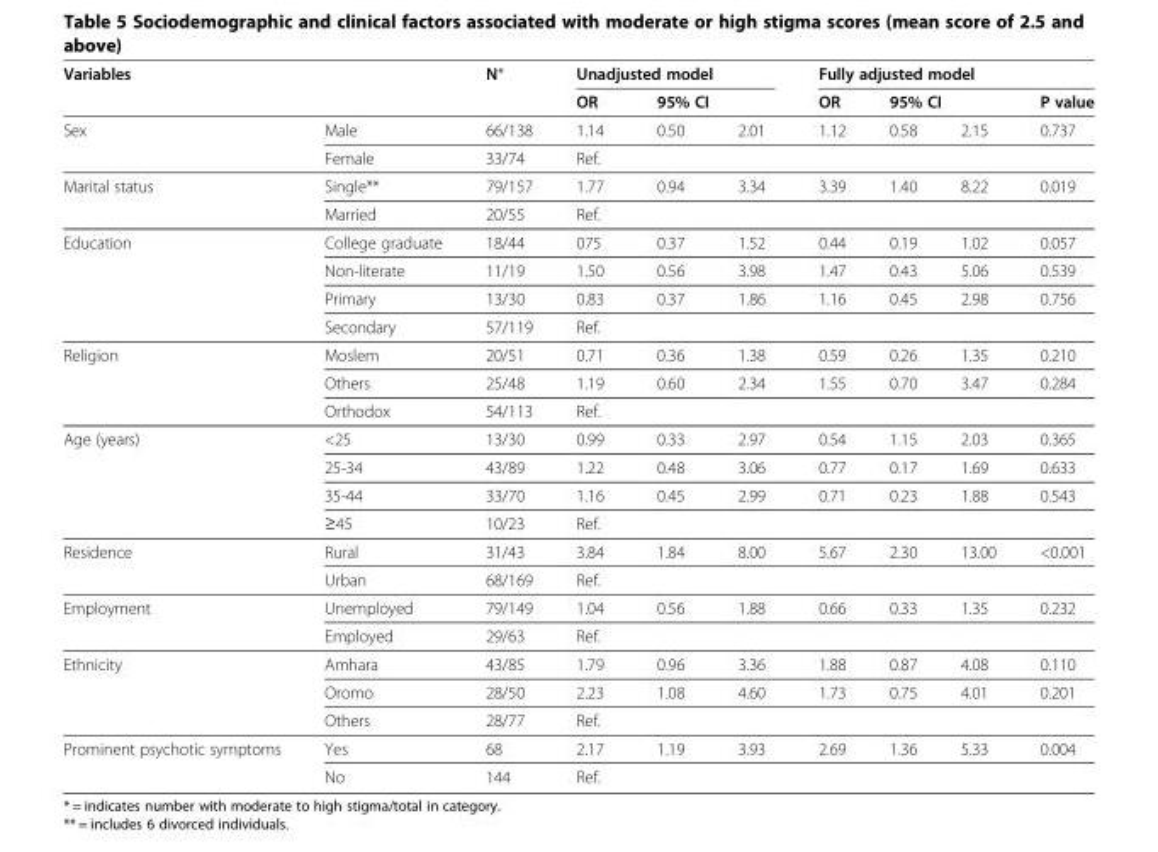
<table><thead><tr><td colspan="2">Variables</td><td rowspan="3">N* 66/138</td><td colspan="3">Unadjusted model</td><td colspan="4">Fully adjusted model</td></tr><tr><td rowspan="2">Sex</td><td rowspan="2">Male</td><td rowspan="2">OR 1.14</td><td colspan="2">95% CI</td><td rowspan="2">OR 1.12</td><td colspan="2">95% CI</td><td rowspan="2">P value 0.737</td></tr><tr><td>0.50</td><td>2.01</td><td>0.58</td><td>2.15</td></tr></thead><tbody><tr><td></td><td>Female</td><td>33/74</td><td>Ref.</td><td></td><td></td><td></td><td></td><td></td><td></td></tr><tr><td rowspan="2">Marital status</td><td>Single**</td><td>79/157</td><td>1.77</td><td>0.94</td><td>3.34</td><td>3.39</td><td>1.40</td><td>8.22</td><td>0.019</td></tr><tr><td>Married</td><td>20/55</td><td>Ref.</td><td></td><td></td><td></td><td></td><td></td><td></td></tr><tr><td rowspan="4">Education</td><td>College graduate</td><td>18/44</td><td>075</td><td>0.37</td><td>1.52</td><td>0.44</td><td>0.19</td><td>1.02</td><td>0.057</td></tr><tr><td>Non-literate</td><td>11/19</td><td>1.50</td><td>0.56</td><td>3.98</td><td>1.47</td><td>0.43</td><td>5.06</td><td>0.539</td></tr><tr><td>Primary</td><td>13/30</td><td>0.83</td><td>0.37</td><td>1.86</td><td>1.16</td><td>0.45</td><td>2.98</td><td>0.756</td></tr><tr><td>Secondary</td><td>57/119</td><td>Ref.</td><td></td><td></td><td></td><td></td><td></td><td></td></tr><tr><td rowspan="3">Religion</td><td>Moslem</td><td>20/51</td><td>0.71</td><td>0.36</td><td>1.38</td><td>0.59</td><td>0.26</td><td>1.35</td><td>0.210</td></tr><tr><td>Others</td><td>25/48</td><td>1.19</td><td>0.60</td><td>2.34</td><td>1.55</td><td>0.70</td><td>3.47</td><td>0.284</td></tr><tr><td>Orthodox</td><td>54/113</td><td>Ref.</td><td></td><td></td><td></td><td></td><td></td><td></td></tr><tr><td rowspan="4">Age (years)</td><td>&lt;25</td><td>13/30</td><td>0.99</td><td>0.33</td><td>2.97</td><td>0.54</td><td>1.15</td><td>2.03</td><td>0.365</td></tr><tr><td>25-34</td><td>43/89</td><td>1.22</td><td>0.48</td><td>3.06</td><td>0.77</td><td>0.17</td><td>1.69</td><td>0.633</td></tr><tr><td>35-44</td><td>33/70</td><td>1.16</td><td>0.45</td><td>2.99</td><td>0.71</td><td>0.23</td><td>1.88</td><td>0.543</td></tr><tr><td>≥45</td><td>10/23</td><td>Ref.</td><td></td><td></td><td></td><td></td><td></td><td></td></tr><tr><td rowspan="2">Residence</td><td>Rural</td><td>31/43</td><td>3.84</td><td>1.84</td><td>8.00</td><td>5.67</td><td>2.30</td><td>13.00</td><td>&lt;0.001</td></tr><tr><td>Urban</td><td>68/169</td><td>Ref.</td><td></td><td></td><td></td><td></td><td></td><td></td></tr><tr><td rowspan="2">Employment</td><td>Unemployed</td><td>79/149</td><td>1.04</td><td>0.56</td><td>1.88</td><td>0.66</td><td>0.33</td><td>1.35</td><td>0.232</td></tr><tr><td>Employed</td><td>29/63</td><td>Ref.</td><td></td><td></td><td></td><td></td><td></td><td></td></tr><tr><td rowspan="3">Ethnicity</td><td>Amhara</td><td>43/85</td><td>1.79</td><td>0.96</td><td>3.36</td><td>1.88</td><td>0.87</td><td>4.08</td><td>0.110</td></tr><tr><td>Oromo</td><td>28/50</td><td>2.23</td><td>1.08</td><td>4.60</td><td>1.73</td><td>0.75</td><td>4.01</td><td>0.201</td></tr><tr><td>Others</td><td>28/77</td><td>Ref.</td><td></td><td></td><td></td><td></td><td></td><td></td></tr><tr><td rowspan="2">Prominent psychotic symptoms</td><td>Yes</td><td>68</td><td>2.17</td><td>1.19</td><td>3.93</td><td>2.69</td><td>1.36</td><td>5.33</td><td>0.004</td></tr><tr><td>No</td><td>144</td><td>Ref.</td><td></td><td></td><td></td><td></td><td></td><td></td></tr></tbody></table>